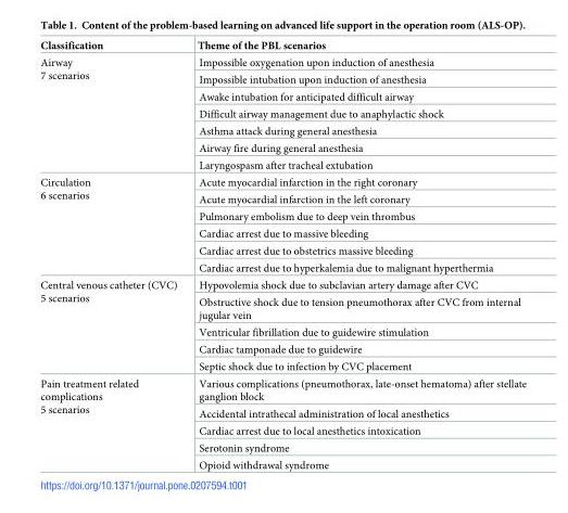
<table><thead><tr><td>Classification</td><td>Theme of the PBL scenarios</td></tr></thead><tbody><tr><td rowspan="7">Airway 7 scenarios</td><td>Impossible oxygenation upon induction of anesthesia</td></tr><tr><td>Impossible intubation upon induction of anesthesia</td></tr><tr><td>Awake intubation for anticipated difficult airway</td></tr><tr><td>Difficult airway management due to anaphylactic shock</td></tr><tr><td>Asthma attack during general anesthesia</td></tr><tr><td>Airway fire during general anesthesia</td></tr><tr><td>Laryngospasm after tracheal extubation</td></tr><tr><td rowspan="6">Circulation 6 scenarios</td><td>Acute myocardial infarction in the right coronary</td></tr><tr><td>Acute myocardial infarction in the left coronary</td></tr><tr><td>Pulmonary embolism due to deep vein thrombus</td></tr><tr><td>Cardiac arrest due to massive bleeding</td></tr><tr><td>Cardiac arrest due to obstetrics massive bleeding</td></tr><tr><td>Cardiac arrest due to hyperkalemia due to malignant hyperthermia</td></tr><tr><td rowspan="5">Central venous catheter (CVC) 5 scenarios</td><td>Hypovolemia shock due to subclavian artery damage after CVC</td></tr><tr><td>Obstructive shock due to tension pneumothorax after CVC from internal jugular vein</td></tr><tr><td>Ventricular fibrillation due to guidewire stimulation</td></tr><tr><td>Cardiac tamponade due to guidewire</td></tr><tr><td>Septic shock due to infection by CVC placement</td></tr><tr><td rowspan="5">Pain treatment related complications 5 scenarios</td><td>Various complications (pneumothorax, late-onset hematoma) after stellate ganglion block</td></tr><tr><td>Accidental intrathecal administration of local anesthetics</td></tr><tr><td>Cardiac arrest due to local anesthetics intoxication</td></tr><tr><td>Serotonin syndrome</td></tr><tr><td>Opioid withdrawal syndrome</td></tr></tbody></table>